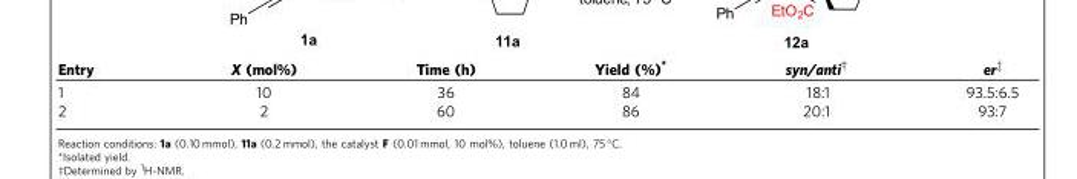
<table><thead><tr><td>Entry</td><td>X (mol%)</td><td>Time (h)</td><td>Yield (%)*</td><td>syn/anti†</td><td>er‡</td></tr></thead><tbody><tr><td>1</td><td>10</td><td>36</td><td>84</td><td>18:1</td><td>93.5:6.5</td></tr><tr><td>2</td><td>2</td><td>60</td><td>86</td><td>20:1</td><td>93:7</td></tr></tbody></table>